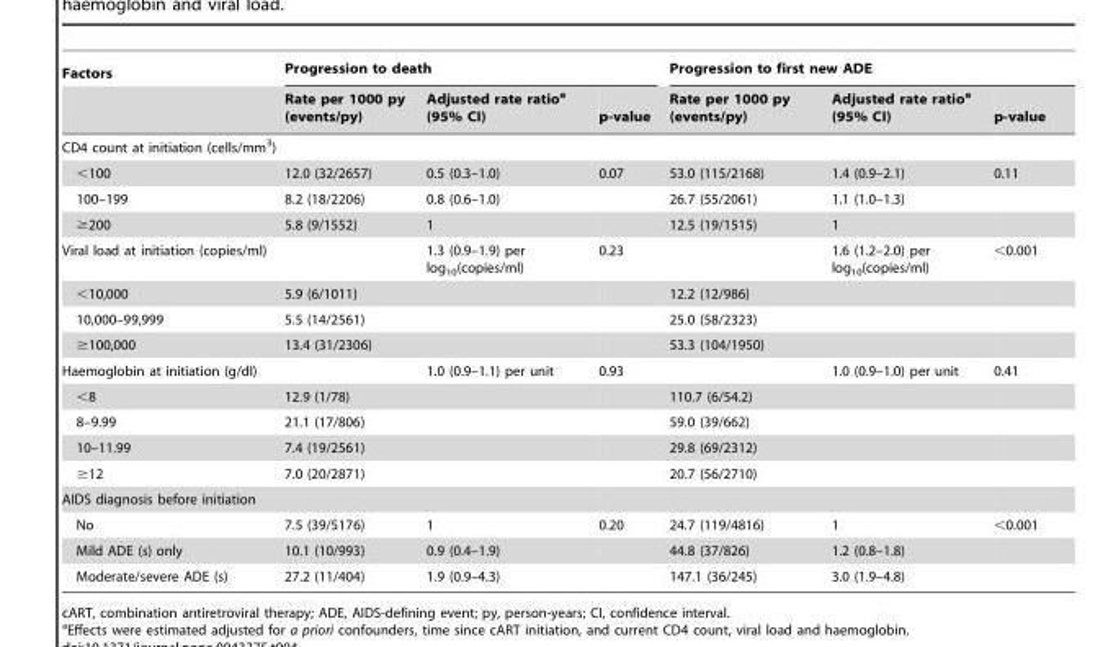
<table><thead><tr><td rowspan="2">Factors</td><td colspan="3">Progression to death</td><td colspan="3">Progression to first new ADE</td></tr><tr><td>Rate per 1000 py (events/py)</td><td>Adjusted rate ratio<sup>a</sup> (95% CI)</td><td>p-value</td><td>Rate per 1000 py (events/py)</td><td>Adjusted rate ratio<sup>a</sup> (95% CI)</td><td>p-value</td></tr></thead><tbody><tr><td colspan="7">CD4 count at initiation (cells/mm<sup>3</sup>)</td></tr><tr><td>&lt;100</td><td>12.0 (32/2657)</td><td>0.5 (0.3–1.0)</td><td>0.07</td><td>53.0 (115/2168)</td><td>1.4 (0.9–2.1)</td><td>0.11</td></tr><tr><td>100–199</td><td>8.2 (18/2206)</td><td>0.8 (0.6–1.0)</td><td></td><td>26.7 (55/2061)</td><td>1.1 (1.0–1.3)</td><td></td></tr><tr><td>≥200</td><td>5.8 (9/1552)</td><td>1</td><td></td><td>12.5 (19/1515)</td><td>1</td><td></td></tr><tr><td colspan="2">Viral load at initiation (copies/ml)</td><td>1.3 (0.9–1.9) per log<sub>10</sub>(copies/ml)</td><td>0.23</td><td></td><td>1.6 (1.2–2.0) per log<sub>10</sub>(copies/ml)</td><td>&lt;0.001</td></tr><tr><td>&lt;10,000</td><td>5.9 (6/1011)</td><td></td><td></td><td>12.2 (12/986)</td><td></td><td></td></tr><tr><td>10,000–99,999</td><td>5.5 (14/2561)</td><td></td><td></td><td>25.0 (58/2323)</td><td></td><td></td></tr><tr><td>≥100,000</td><td>13.4 (31/2306)</td><td></td><td></td><td>53.3 (104/1950)</td><td></td><td></td></tr><tr><td colspan="2">Haemoglobin at initiation (g/dl)</td><td>1.0 (0.9–1.1) per unit</td><td>0.93</td><td></td><td>1.0 (0.9–1.0) per unit</td><td>0.41</td></tr><tr><td>&lt;8</td><td>12.9 (1/78)</td><td></td><td></td><td>110.7 (6/54.2)</td><td></td><td></td></tr><tr><td>8–9.99</td><td>21.1 (17/806)</td><td></td><td></td><td>59.0 (39/662)</td><td></td><td></td></tr><tr><td>10–11.99</td><td>7.4 (19/2561)</td><td></td><td></td><td>29.8 (69/2312)</td><td></td><td></td></tr><tr><td>≥12</td><td>7.0 (20/2871)</td><td></td><td></td><td>20.7 (56/2710)</td><td></td><td></td></tr><tr><td colspan="7">AIDS diagnosis before initiation</td></tr><tr><td>No</td><td>7.5 (39/5176)</td><td>1</td><td>0.20</td><td>24.7 (119/4816)</td><td>1</td><td>&lt;0.001</td></tr><tr><td>Mild ADE (s) only</td><td>10.1 (10/993)</td><td>0.9 (0.4–1.9)</td><td></td><td>44.8 (37/826)</td><td>1.2 (0.8–1.8)</td><td></td></tr><tr><td>Moderate/severe ADE (s)</td><td>27.2 (11/404)</td><td>1.9 (0.9–4.3)</td><td></td><td>147.1 (36/245)</td><td>3.0 (1.9–4.8)</td><td></td></tr></tbody></table>